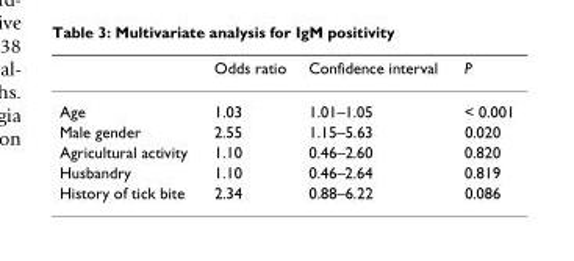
<table><thead><tr><td></td><td>Odds ratio</td><td>Confidence interval</td><td>P</td></tr></thead><tbody><tr><td>Age</td><td>1.03</td><td>1.01–1.05</td><td>&lt; 0.001</td></tr><tr><td>Male gender</td><td>2.55</td><td>1.15–5.63</td><td>0.020</td></tr><tr><td>Agricultural activity</td><td>1.10</td><td>0.46–2.60</td><td>0.820</td></tr><tr><td>Husbandry</td><td>1.10</td><td>0.46–2.64</td><td>0.819</td></tr><tr><td>History of tick bite</td><td>2.34</td><td>0.88–6.22</td><td>0.086</td></tr></tbody></table>